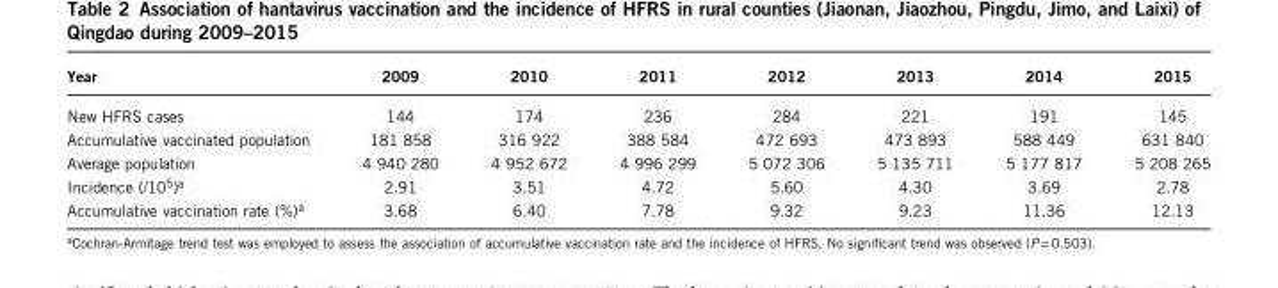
<table><thead><tr><td>Year</td><td>2009</td><td>2010</td><td>2011</td><td>2012</td><td>2013</td><td>2014</td><td>2015</td></tr></thead><tbody><tr><td>New HFRS cases</td><td>144</td><td>174</td><td>236</td><td>284</td><td>221</td><td>191</td><td>145</td></tr><tr><td>Accumulative vaccinated population</td><td>181 858</td><td>316 922</td><td>388 584</td><td>472 693</td><td>473 893</td><td>588 449</td><td>631 840</td></tr><tr><td>Average population</td><td>4 940 280</td><td>4 952 672</td><td>4 996 299</td><td>5 072 306</td><td>5 135 711</td><td>5 177 817</td><td>5 208 265</td></tr><tr><td>Incidence (/10<sup>5</sup>)<sup>a</sup></td><td>2.91</td><td>3.51</td><td>4.72</td><td>5.60</td><td>4.30</td><td>3.69</td><td>2.78</td></tr><tr><td>Accumulative vaccination rate (%)<sup>a</sup></td><td>3.68</td><td>6.40</td><td>7.78</td><td>9.32</td><td>9.23</td><td>11.36</td><td>12.13</td></tr></tbody></table>